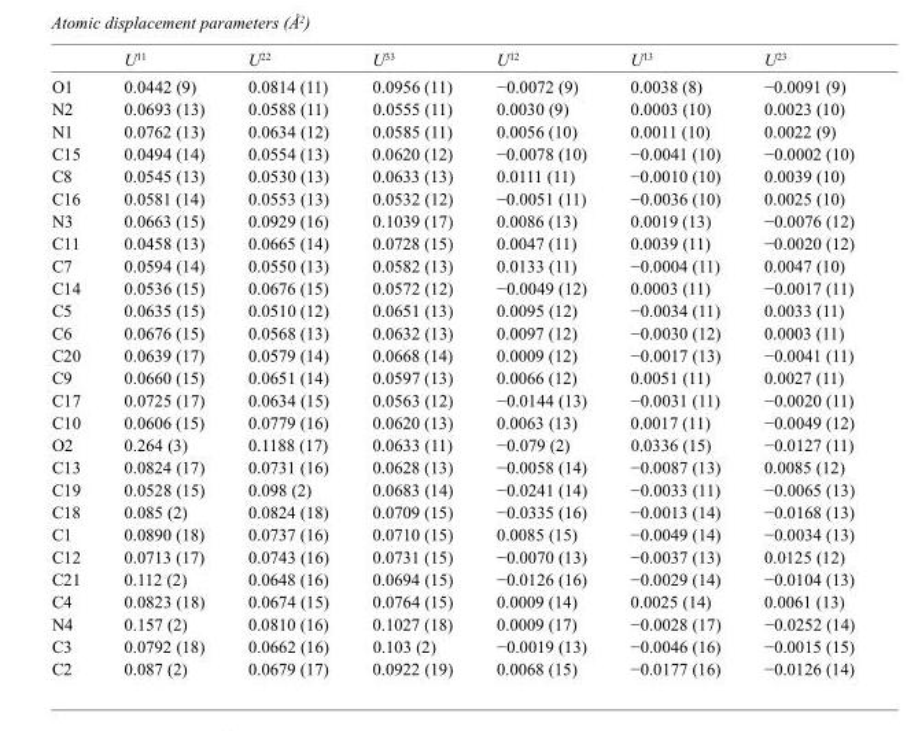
<table><thead><tr><td></td><td>U<sup>11</sup></td><td>U<sup>22</sup></td><td>U<sup>33</sup></td><td>U<sup>12</sup></td><td>U<sup>13</sup></td><td>U<sup>23</sup></td></tr></thead><tbody><tr><td>O1</td><td>0.0442 (9)</td><td>0.0814 (11)</td><td>0.0956 (11)</td><td>−0.0072 (9)</td><td>0.0038 (8)</td><td>−0.0091 (9)</td></tr><tr><td>N2</td><td>0.0693 (13)</td><td>0.0588 (11)</td><td>0.0555 (11)</td><td>0.0030 (9)</td><td>0.0003 (10)</td><td>0.0023 (10)</td></tr><tr><td>N1</td><td>0.0762 (13)</td><td>0.0634 (12)</td><td>0.0585 (11)</td><td>0.0056 (10)</td><td>0.0011 (10)</td><td>0.0022 (9)</td></tr><tr><td>C15</td><td>0.0494 (14)</td><td>0.0554 (13)</td><td>0.0620 (12)</td><td>−0.0078 (10)</td><td>−0.0041 (10)</td><td>−0.0002 (10)</td></tr><tr><td>C8</td><td>0.0545 (13)</td><td>0.0530 (13)</td><td>0.0633 (13)</td><td>0.0111 (11)</td><td>−0.0010 (10)</td><td>0.0039 (10)</td></tr><tr><td>C16</td><td>0.0581 (14)</td><td>0.0553 (13)</td><td>0.0532 (12)</td><td>−0.0051 (11)</td><td>−0.0036 (10)</td><td>0.0025 (10)</td></tr><tr><td>N3</td><td>0.0663 (15)</td><td>0.0929 (16)</td><td>0.1039 (17)</td><td>0.0086 (13)</td><td>0.0019 (13)</td><td>−0.0076 (12)</td></tr><tr><td>C11</td><td>0.0458 (13)</td><td>0.0665 (14)</td><td>0.0728 (15)</td><td>0.0047 (11)</td><td>0.0039 (11)</td><td>−0.0020 (12)</td></tr><tr><td>C7</td><td>0.0594 (14)</td><td>0.0550 (13)</td><td>0.0582 (13)</td><td>0.0133 (11)</td><td>−0.0004 (11)</td><td>0.0047 (10)</td></tr><tr><td>C14</td><td>0.0536 (15)</td><td>0.0676 (15)</td><td>0.0572 (12)</td><td>−0.0049 (12)</td><td>0.0003 (11)</td><td>−0.0017 (11)</td></tr><tr><td>C5</td><td>0.0635 (15)</td><td>0.0510 (12)</td><td>0.0651 (13)</td><td>0.0095 (12)</td><td>−0.0034 (11)</td><td>0.0033 (11)</td></tr><tr><td>C6</td><td>0.0676 (15)</td><td>0.0568 (13)</td><td>0.0632 (13)</td><td>0.0097 (12)</td><td>−0.0030 (12)</td><td>0.0003 (11)</td></tr><tr><td>C20</td><td>0.0639 (17)</td><td>0.0579 (14)</td><td>0.0668 (14)</td><td>0.0009 (12)</td><td>−0.0017 (13)</td><td>−0.0041 (11)</td></tr><tr><td>C9</td><td>0.0660 (15)</td><td>0.0651 (14)</td><td>0.0597 (13)</td><td>0.0066 (12)</td><td>0.0051 (11)</td><td>0.0027 (11)</td></tr><tr><td>C17</td><td>0.0725 (17)</td><td>0.0634 (15)</td><td>0.0563 (12)</td><td>−0.0144 (13)</td><td>−0.0031 (11)</td><td>−0.0020 (11)</td></tr><tr><td>C10</td><td>0.0606 (15)</td><td>0.0779 (16)</td><td>0.0620 (13)</td><td>0.0063 (13)</td><td>0.0017 (11)</td><td>−0.0049 (12)</td></tr><tr><td>O2</td><td>0.264 (3)</td><td>0.1188 (17)</td><td>0.0633 (11)</td><td>−0.079 (2)</td><td>0.0336 (15)</td><td>−0.0127 (11)</td></tr><tr><td>C13</td><td>0.0824 (17)</td><td>0.0731 (16)</td><td>0.0628 (13)</td><td>−0.0058 (14)</td><td>−0.0087 (13)</td><td>0.0085 (12)</td></tr><tr><td>C19</td><td>0.0528 (15)</td><td>0.098 (2)</td><td>0.0683 (14)</td><td>−0.0241 (14)</td><td>−0.0033 (11)</td><td>−0.0065 (13)</td></tr><tr><td>C18</td><td>0.085 (2)</td><td>0.0824 (18)</td><td>0.0709 (15)</td><td>−0.0335 (16)</td><td>−0.0013 (14)</td><td>−0.0168 (13)</td></tr><tr><td>C1</td><td>0.0890 (18)</td><td>0.0737 (16)</td><td>0.0710 (15)</td><td>0.0085 (15)</td><td>−0.0049 (14)</td><td>−0.0034 (13)</td></tr><tr><td>C12</td><td>0.0713 (17)</td><td>0.0743 (16)</td><td>0.0731 (15)</td><td>−0.0070 (13)</td><td>−0.0037 (13)</td><td>0.0125 (12)</td></tr><tr><td>C21</td><td>0.112 (2)</td><td>0.0648 (16)</td><td>0.0694 (15)</td><td>−0.0126 (16)</td><td>−0.0029 (14)</td><td>−0.0104 (13)</td></tr><tr><td>C4</td><td>0.0823 (18)</td><td>0.0674 (15)</td><td>0.0764 (15)</td><td>0.0009 (14)</td><td>0.0025 (14)</td><td>0.0061 (13)</td></tr><tr><td>N4</td><td>0.157 (2)</td><td>0.0810 (16)</td><td>0.1027 (18)</td><td>0.0009 (17)</td><td>−0.0028 (17)</td><td>−0.0252 (14)</td></tr><tr><td>C3</td><td>0.0792 (18)</td><td>0.0662 (16)</td><td>0.103 (2)</td><td>−0.0019 (13)</td><td>−0.0046 (16)</td><td>−0.0015 (15)</td></tr><tr><td>C2</td><td>0.087 (2)</td><td>0.0679 (17)</td><td>0.0922 (19)</td><td>0.0068 (15)</td><td>−0.0177 (16)</td><td>−0.0126 (14)</td></tr></tbody></table>